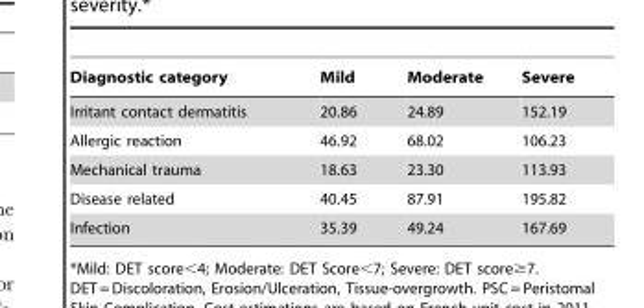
<table><thead><tr><td>Diagnostic category</td><td>Mild</td><td>Moderate</td><td>Severe</td></tr></thead><tbody><tr><td>Irritant contact dermatitis</td><td>20.86</td><td>24.89</td><td>152.19</td></tr><tr><td>Allergic reaction</td><td>46.92</td><td>68.02</td><td>106.23</td></tr><tr><td>Mechanical trauma</td><td>18.63</td><td>23.30</td><td>113.93</td></tr><tr><td>Disease related</td><td>40.45</td><td>87.91</td><td>195.82</td></tr><tr><td>Infection</td><td>35.39</td><td>49.24</td><td>167.69</td></tr></tbody></table>